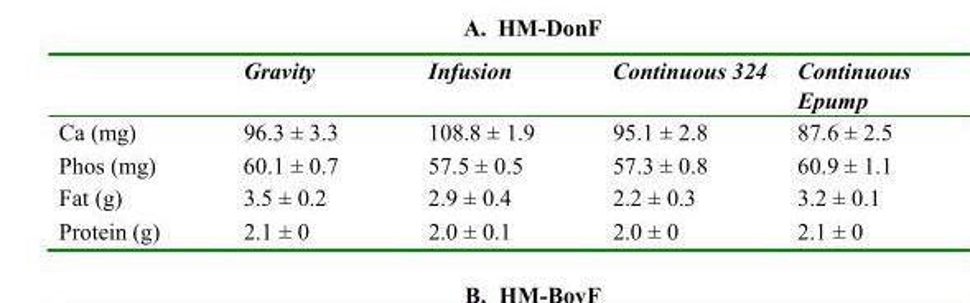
<table><thead><tr><td></td><td>Gravity</td><td>Infusion</td><td>Continuous 324</td><td>Continuous Epump</td></tr></thead><tbody><tr><td>Ca (mg)</td><td>96.3 ± 3.3</td><td>108.8 ± 1.9</td><td>95.1 ± 2.8</td><td>87.6 ± 2.5</td></tr><tr><td>Phos (mg)</td><td>60.1 ± 0.7</td><td>57.5 ± 0.5</td><td>57.3 ± 0.8</td><td>60.9 ± 1.1</td></tr><tr><td>Fat (g)</td><td>3.5 ± 0.2</td><td>2.9 ± 0.4</td><td>2.2 ± 0.3</td><td>3.2 ± 0.1</td></tr><tr><td>Protein (g)</td><td>2.1 ± 0</td><td>2.0 ± 0.1</td><td>2.0 ± 0</td><td>2.1 ± 0</td></tr></tbody></table>